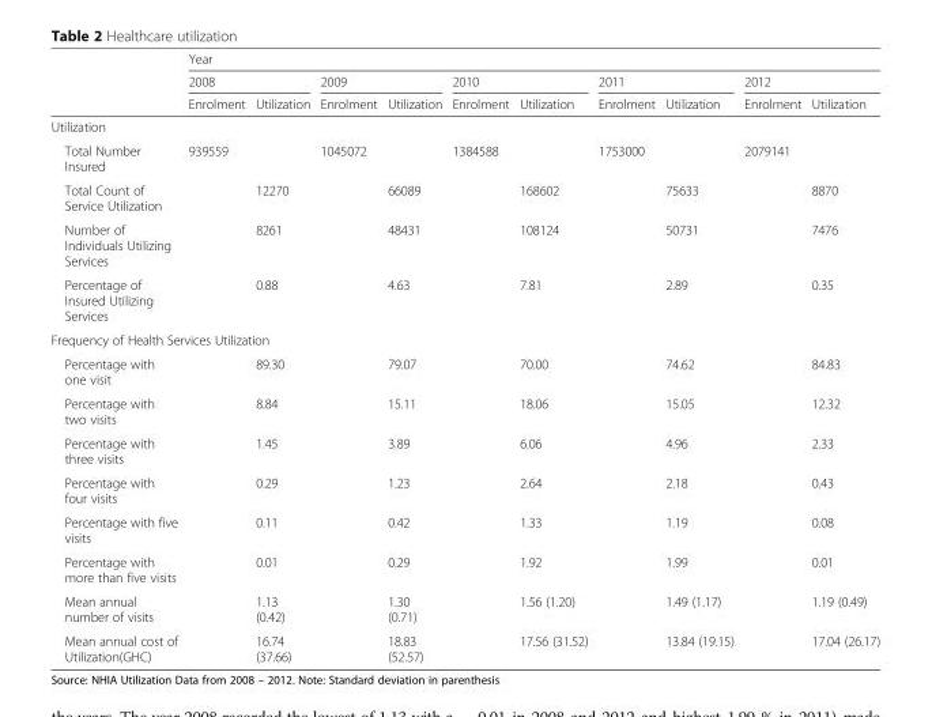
<table><thead><tr><td rowspan="3"></td><td colspan="10">Year</td></tr><tr><td colspan="2">2008</td><td colspan="2">2009</td><td colspan="2">2010</td><td colspan="2">2011</td><td colspan="2">2012</td></tr><tr><td>Enrolment</td><td>Utilization</td><td>Enrolment</td><td>Utilization</td><td>Enrolment</td><td>Utilization</td><td>Enrolment</td><td>Utilization</td><td>Enrolment</td><td>Utilization</td></tr></thead><tbody><tr><td colspan="11">Utilization</td></tr><tr><td>Total Number Insured</td><td>939559</td><td></td><td>1045072</td><td></td><td>1384588</td><td></td><td>1753000</td><td></td><td>2079141</td><td></td></tr><tr><td>Total Count of Service Utilization</td><td></td><td>12270</td><td></td><td>66089</td><td></td><td>168602</td><td></td><td>75633</td><td></td><td>8870</td></tr><tr><td>Number of Individuals Utilizing Services</td><td></td><td>8261</td><td></td><td>48431</td><td></td><td>108124</td><td></td><td>50731</td><td></td><td>7476</td></tr><tr><td>Percentage of Insured Utilizing Services</td><td></td><td>0.88</td><td></td><td>4.63</td><td></td><td>7.81</td><td></td><td>2.89</td><td></td><td>0.35</td></tr><tr><td colspan="11">Frequency of Health Services Utilization</td></tr><tr><td>Percentage with one visit</td><td></td><td>89.30</td><td></td><td>79.07</td><td></td><td>70.00</td><td></td><td>74.62</td><td></td><td>84.83</td></tr><tr><td>Percentage with two visits</td><td></td><td>8.84</td><td></td><td>15.11</td><td></td><td>18.06</td><td></td><td>15.05</td><td></td><td>12.32</td></tr><tr><td>Percentage with three visits</td><td></td><td>1.45</td><td></td><td>3.89</td><td></td><td>6.06</td><td></td><td>4.96</td><td></td><td>2.33</td></tr><tr><td>Percentage with four visits</td><td></td><td>0.29</td><td></td><td>1.23</td><td></td><td>2.64</td><td></td><td>2.18</td><td></td><td>0.43</td></tr><tr><td>Percentage with five visits</td><td></td><td>0.11</td><td></td><td>0.42</td><td></td><td>1.33</td><td></td><td>1.19</td><td></td><td>0.08</td></tr><tr><td>Percentage with more than five visits</td><td></td><td>0.01</td><td></td><td>0.29</td><td></td><td>1.92</td><td></td><td>1.99</td><td></td><td>0.01</td></tr><tr><td>Mean annual number of visits</td><td></td><td>1.13 (0.42)</td><td></td><td>1.30 (0.71)</td><td></td><td>1.56 (1.20)</td><td></td><td>1.49 (1.17)</td><td></td><td>1.19 (0.49)</td></tr><tr><td>Mean annual cost of Utilization(GHC)</td><td></td><td>16.74 (37.66)</td><td></td><td>18.83 (52.57)</td><td></td><td>17.56 (31.52)</td><td></td><td>13.84 (19.15)</td><td></td><td>17.04 (26.17)</td></tr></tbody></table>